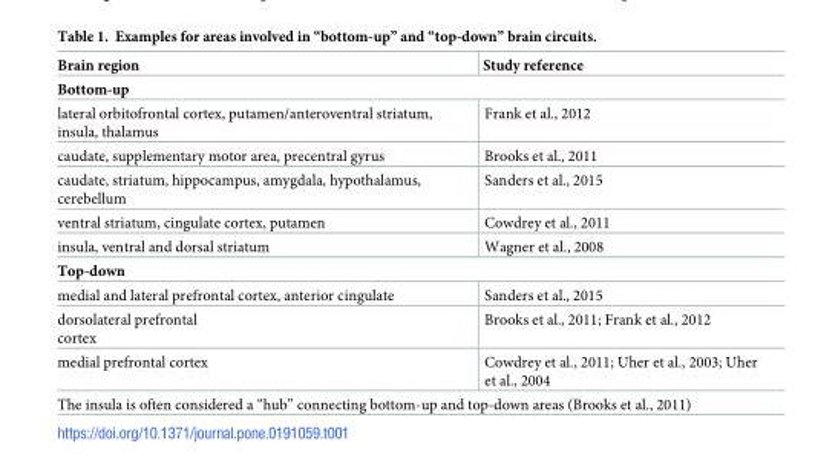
<table><thead><tr><td>Brain region</td><td>Study reference</td></tr></thead><tbody><tr><td colspan="2">Bottom-up</td></tr><tr><td>lateral orbitofrontal cortex, putamen/anteroventral striatum, insula, thalamus</td><td>Frank et al., 2012</td></tr><tr><td>caudate, supplementary motor area, precentral gyrus</td><td>Brooks et al., 2011</td></tr><tr><td>caudate, striatum, hippocampus, amygdala, hypothalamus, cerebellum</td><td>Sanders et al., 2015</td></tr><tr><td>ventral striatum, cingulate cortex, putamen</td><td>Cowdrey et al., 2011</td></tr><tr><td>insula, ventral and dorsal striatum</td><td>Wagner et al., 2008</td></tr><tr><td colspan="2">Top-down</td></tr><tr><td>medial and lateral prefrontal cortex, anterior cingulate</td><td>Sanders et al., 2015</td></tr><tr><td>dorsolateral prefrontal cortex</td><td>Brooks et al., 2011; Frank et al., 2012</td></tr><tr><td>medial prefrontal cortex</td><td>Cowdrey et al., 2011; Uher et al., 2003; Uher et al., 2004</td></tr><tr><td colspan="2">The insula is often considered a “hub” connecting bottom-up and top-down areas (Brooks et al., 2011)</td></tr></tbody></table>